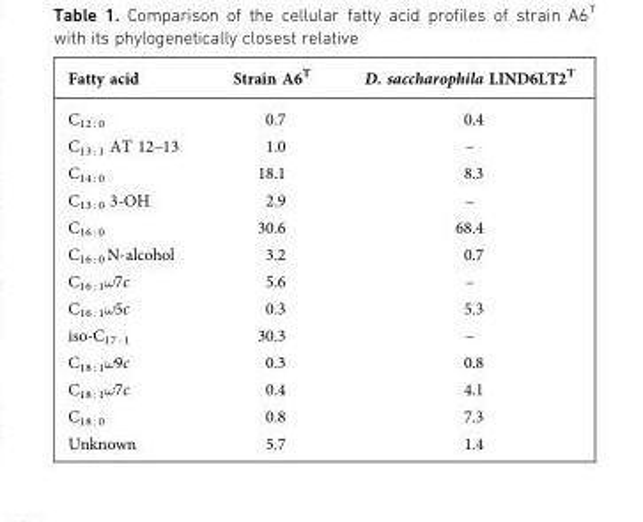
<table><thead><tr><td>Fatty acid</td><td>Strain A6<sup>T</sup></td><td>D. saccharophila LIND6LT2<sup>T</sup></td></tr></thead><tbody><tr><td>C<sub>12 : 0</sub></td><td>0.7</td><td>0.4</td></tr><tr><td>C<sub>13 : 1</sub> AT 12–13</td><td>1.0</td><td>–</td></tr><tr><td>C<sub>14 : 0</sub></td><td>18.1</td><td>8.3</td></tr><tr><td>C<sub>13 : 0</sub> 3-OH</td><td>2.9</td><td>–</td></tr><tr><td>C<sub>16 : 0</sub></td><td>30.6</td><td>68.4</td></tr><tr><td>C<sub>16 : 0</sub> N-alcohol</td><td>3.2</td><td>0.7</td></tr><tr><td>C16 : 1!7c</td><td>5.6</td><td>–</td></tr><tr><td>C16 : 1!5c</td><td>0.3</td><td>5.3</td></tr><tr><td>iso-C<sub>17 : 1</sub></td><td>30.3</td><td>–</td></tr><tr><td>C18 : 1!9c</td><td>0.3</td><td>0.8</td></tr><tr><td>C18 : 1!7c</td><td>0.4</td><td>4.1</td></tr><tr><td>C<sub>18 : 0</sub></td><td>0.8</td><td>7.3</td></tr><tr><td>Unknown</td><td>5.7</td><td>1.4</td></tr></tbody></table>